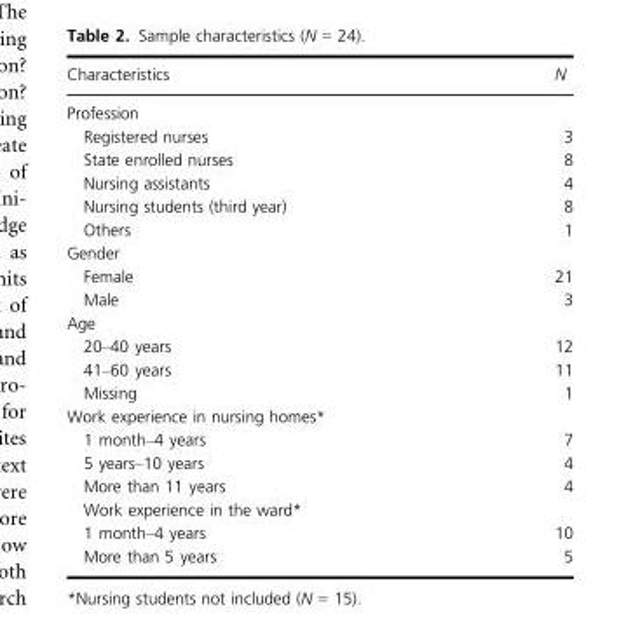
<table><thead><tr><td>Characteristics</td><td>N</td></tr></thead><tbody><tr><td colspan="2">Profession</td></tr><tr><td>Registered nurses</td><td>3</td></tr><tr><td>State enrolled nurses</td><td>8</td></tr><tr><td>Nursing assistants</td><td>4</td></tr><tr><td>Nursing students (third year)</td><td>8</td></tr><tr><td>Others</td><td>1</td></tr><tr><td colspan="2">Gender</td></tr><tr><td>Female</td><td>21</td></tr><tr><td>Male</td><td>3</td></tr><tr><td colspan="2">Age</td></tr><tr><td>20–40 years</td><td>12</td></tr><tr><td>41–60 years</td><td>11</td></tr><tr><td>Missing</td><td>1</td></tr><tr><td colspan="2">Work experience in nursing homes*</td></tr><tr><td>1 month–4 years</td><td>7</td></tr><tr><td>5 years–10 years</td><td>4</td></tr><tr><td>More than 11 years</td><td>4</td></tr><tr><td colspan="2">Work experience in the ward*</td></tr><tr><td>1 month–4 years</td><td>10</td></tr><tr><td>More than 5 years</td><td>5</td></tr></tbody></table>